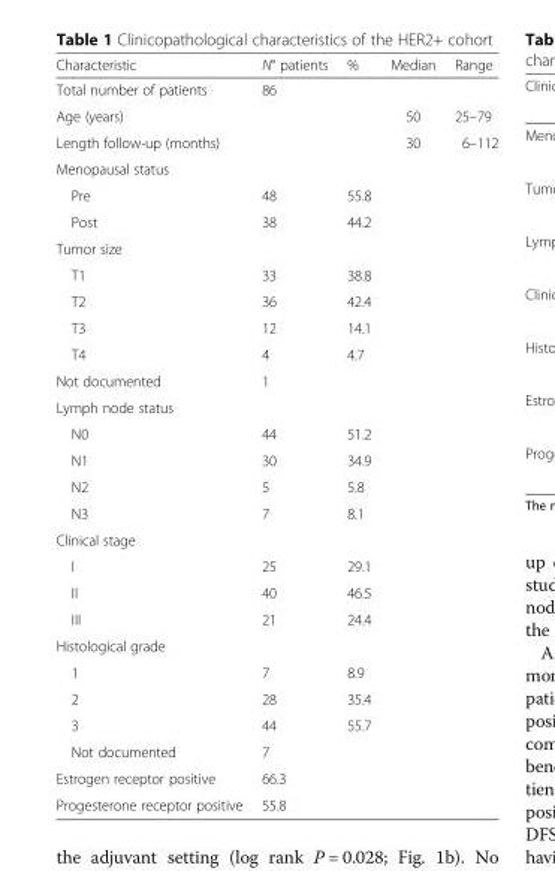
<table><thead><tr><td>Characteristic</td><td>N° patients</td><td>%</td><td>Median</td><td>Range</td></tr></thead><tbody><tr><td>Total number of patients</td><td>86</td><td></td><td></td><td></td></tr><tr><td>Age (years)</td><td></td><td></td><td>50</td><td>25–79</td></tr><tr><td>Length follow-up (months)</td><td></td><td></td><td>30</td><td>6–112</td></tr><tr><td colspan="5">Menopausal status</td></tr><tr><td>Pre</td><td>48</td><td>55.8</td><td></td><td></td></tr><tr><td>Post</td><td>38</td><td>44.2</td><td></td><td></td></tr><tr><td colspan="5">Tumor size</td></tr><tr><td>T1</td><td>33</td><td>38.8</td><td></td><td></td></tr><tr><td>T2</td><td>36</td><td>42.4</td><td></td><td></td></tr><tr><td>T3</td><td>12</td><td>14.1</td><td></td><td></td></tr><tr><td>T4</td><td>4</td><td>4.7</td><td></td><td></td></tr><tr><td>Not documented</td><td>1</td><td></td><td></td><td></td></tr><tr><td colspan="5">Lymph node status</td></tr><tr><td>N0</td><td>44</td><td>51.2</td><td></td><td></td></tr><tr><td>N1</td><td>30</td><td>34.9</td><td></td><td></td></tr><tr><td>N2</td><td>5</td><td>5.8</td><td></td><td></td></tr><tr><td>N3</td><td>7</td><td>8.1</td><td></td><td></td></tr><tr><td colspan="5">Clinical stage</td></tr><tr><td>I</td><td>25</td><td>29.1</td><td></td><td></td></tr><tr><td>II</td><td>40</td><td>46.5</td><td></td><td></td></tr><tr><td>III</td><td>21</td><td>24.4</td><td></td><td></td></tr><tr><td colspan="5">Histological grade</td></tr><tr><td>1</td><td>7</td><td>8.9</td><td></td><td></td></tr><tr><td>2</td><td>28</td><td>35.4</td><td></td><td></td></tr><tr><td>3</td><td>44</td><td>55.7</td><td></td><td></td></tr><tr><td>Not documented</td><td>7</td><td></td><td></td><td></td></tr><tr><td>Estrogen receptor positive</td><td>66.3</td><td></td><td></td><td></td></tr><tr><td>Progesterone receptor positive</td><td>55.8</td><td></td><td></td><td></td></tr></tbody></table>